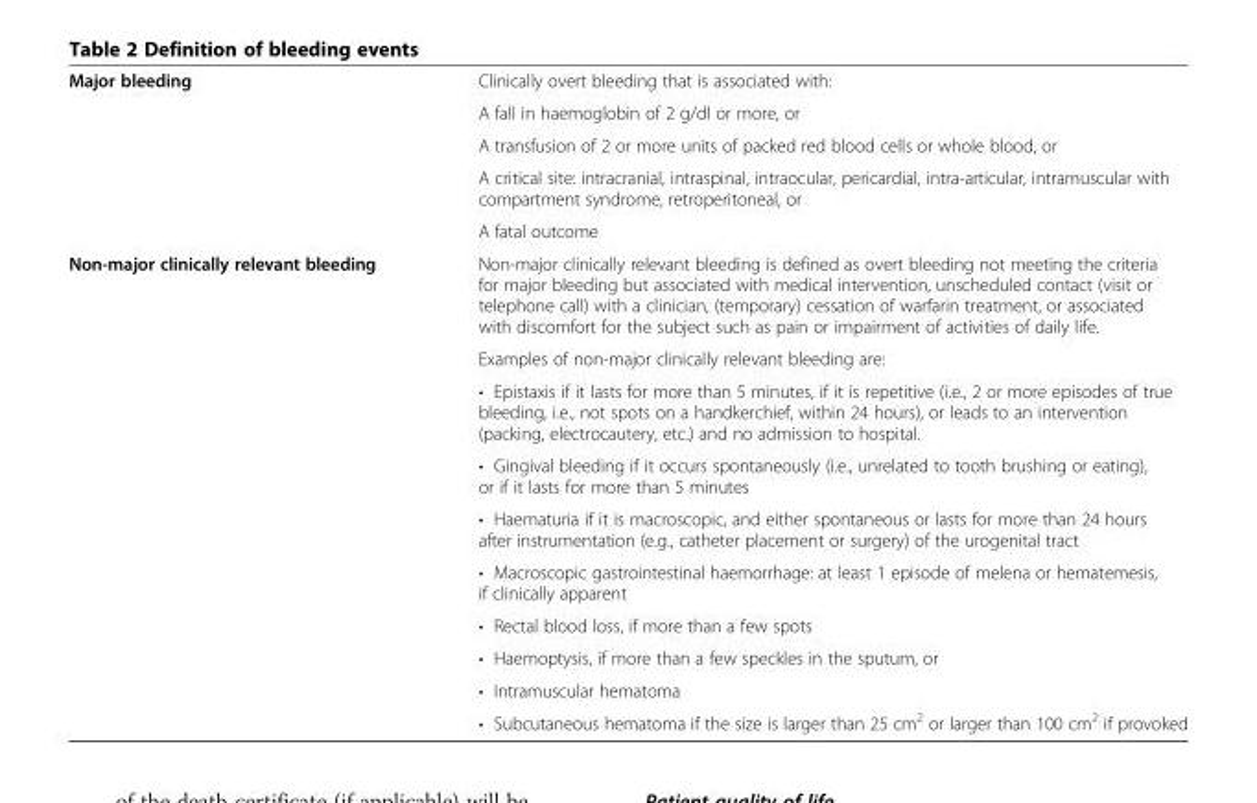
<table><tbody><tr><td rowspan="5">Major bleeding</td><td>Clinically overt bleeding that is associated with:</td></tr><tr><td>A fall in haemoglobin of 2 g/dl or more, or</td></tr><tr><td>A transfusion of 2 or more units of packed red blood cells or whole blood, or</td></tr><tr><td>A critical site: intracranial, intraspinal, intraocular, pericardial, intra-articular, intramuscular with compartment syndrome, retroperitoneal, or</td></tr><tr><td>A fatal outcome</td></tr><tr><td rowspan="10">Non-major clinically relevant bleeding</td><td>Non-major clinically relevant bleeding is defined as overt bleeding not meeting the criteria for major bleeding but associated with medical intervention, unscheduled contact (visit or telephone call) with a clinician, (temporary) cessation of warfarin treatment, or associated with discomfort for the subject such as pain or impairment of activities of daily life.</td></tr><tr><td>Examples of non-major clinically relevant bleeding are:</td></tr><tr><td>• Epistaxis if it lasts for more than 5 minutes, if it is repetitive (i.e., 2 or more episodes of true bleeding, i.e., not spots on a handkerchief, within 24 hours), or leads to an intervention (packing, electrocautery, etc.) and no admission to hospital.</td></tr><tr><td>• Gingival bleeding if it occurs spontaneously (i.e., unrelated to tooth brushing or eating), or if it lasts for more than 5 minutes</td></tr><tr><td>• Haematuria if it is macroscopic, and either spontaneous or lasts for more than 24 hours after instrumentation (e.g., catheter placement or surgery) of the urogenital tract</td></tr><tr><td>• Macroscopic gastrointestinal haemorrhage: at least 1 episode of melena or hematemesis, if clinically apparent</td></tr><tr><td>• Rectal blood loss, if more than a few spots</td></tr><tr><td>• Haemoptysis, if more than a few speckles in the sputum, or</td></tr><tr><td>• Intramuscular hematoma</td></tr><tr><td>• Subcutaneous hematoma if the size is larger than 25 cm<sup>2</sup> or larger than 100 cm<sup>2</sup> if provoked</td></tr></tbody></table>